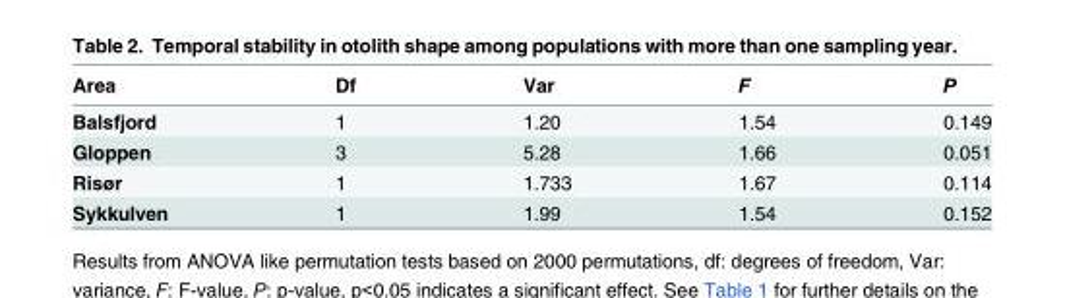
<table><thead><tr><td>Area</td><td>Df</td><td>Var</td><td>F</td><td>P</td></tr></thead><tbody><tr><td>Balsfjord</td><td>1</td><td>1.20</td><td>1.54</td><td>0.149</td></tr><tr><td>Gloppen</td><td>3</td><td>5.28</td><td>1.66</td><td>0.051</td></tr><tr><td>Risør</td><td>1</td><td>1.733</td><td>1.67</td><td>0.114</td></tr><tr><td>Sykkulven</td><td>1</td><td>1.99</td><td>1.54</td><td>0.152</td></tr></tbody></table>